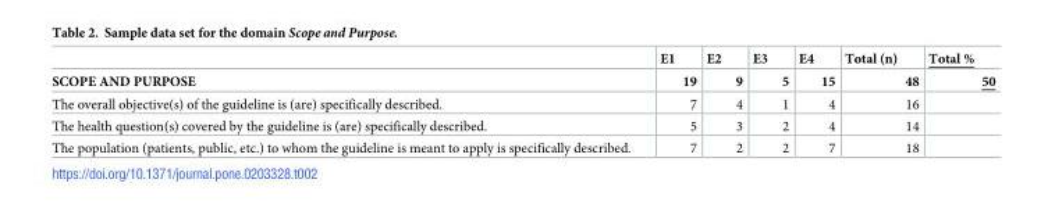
<table><thead><tr><td></td><td>E1</td><td>E2</td><td>E3</td><td>E4</td><td>Total (n)</td><td>Total %</td></tr></thead><tbody><tr><td>SCOPE AND PURPOSE</td><td>19</td><td>9</td><td>5</td><td>15</td><td>48</td><td>50</td></tr><tr><td>The overall objective(s) of the guideline is (are) specifically described.</td><td>7</td><td>4</td><td>1</td><td>4</td><td>16</td><td></td></tr><tr><td>The health question(s) covered by the guideline is (are) specifically described.</td><td>5</td><td>3</td><td>2</td><td>4</td><td>14</td><td></td></tr><tr><td>The population (patients, public, etc.) to whom the guideline is meant to apply is specifically described.</td><td>7</td><td>2</td><td>2</td><td>7</td><td>18</td><td></td></tr></tbody></table>